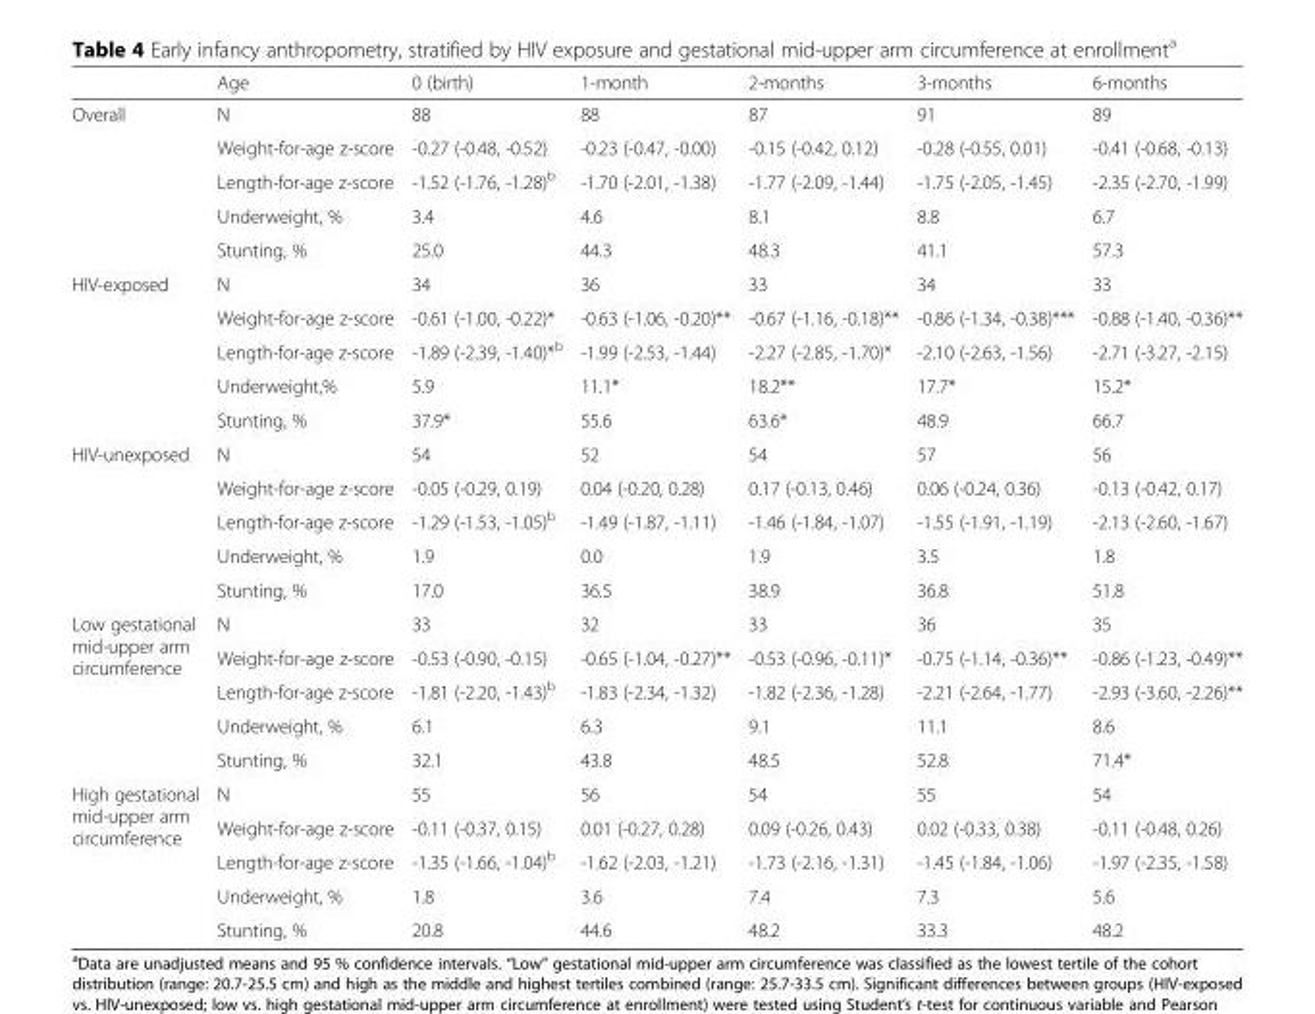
<table><thead><tr><td></td><td>Age</td><td>0 (birth)</td><td>1-month</td><td>2-months</td><td>3-months</td><td>6-months</td></tr></thead><tbody><tr><td rowspan="5">Overall</td><td>N</td><td>88</td><td>88</td><td>87</td><td>91</td><td>89</td></tr><tr><td>Weight-for-age z-score</td><td>-0.27 (-0.48, -0.52)</td><td>-0.23 (-0.47, -0.00)</td><td>-0.15 (-0.42, 0.12)</td><td>-0.28 (-0.55, 0.01)</td><td>-0.41 (-0.68, -0.13)</td></tr><tr><td>Length-for-age z-score</td><td>-1.52 (-1.76, -1.28)<sup>b</sup></td><td>-1.70 (-2.01, -1.38)</td><td>-1.77 (-2.09, -1.44)</td><td>-1.75 (-2.05, -1.45)</td><td>-2.35 (-2.70, -1.99)</td></tr><tr><td>Underweight, %</td><td>3.4</td><td>4.6</td><td>8.1</td><td>8.8</td><td>6.7</td></tr><tr><td>Stunting, %</td><td>25.0</td><td>44.3</td><td>48.3</td><td>41.1</td><td>57.3</td></tr><tr><td rowspan="5">HIV-exposed</td><td>N</td><td>34</td><td>36</td><td>33</td><td>34</td><td>33</td></tr><tr><td>Weight-for-age z-score</td><td>-0.61 (-1.00, -0.22)*</td><td>-0.63 (-1.06, -0.20)**</td><td>-0.67 (-1.16, -0.18)**</td><td>-0.86 (-1.34, -0.38)***</td><td>-0.88 (-1.40, -0.36)**</td></tr><tr><td>Length-for-age z-score</td><td>-1.89 (-2.39, -1.40)*<sup>b</sup></td><td>-1.99 (-2.53, -1.44)</td><td>-2.27 (-2.85, -1.70)*</td><td>-2.10 (-2.63, -1.56)</td><td>-2.71 (-3.27, -2.15)</td></tr><tr><td>Underweight,%</td><td>5.9</td><td>11.1*</td><td>18.2**</td><td>17.7*</td><td>15.2*</td></tr><tr><td>Stunting, %</td><td>37.9*</td><td>55.6</td><td>63.6*</td><td>48.9</td><td>66.7</td></tr><tr><td rowspan="5">HIV-unexposed</td><td>N</td><td>54</td><td>52</td><td>54</td><td>57</td><td>56</td></tr><tr><td>Weight-for-age z-score</td><td>-0.05 (-0.29, 0.19)</td><td>0.04 (-0.20, 0.28)</td><td>0.17 (-0.13, 0.46)</td><td>0.06 (-0.24, 0.36)</td><td>-0.13 (-0.42, 0.17)</td></tr><tr><td>Length-for-age z-score</td><td>-1.29 (-1.53, -1.05)<sup>b</sup></td><td>-1.49 (-1.87, -1.11)</td><td>-1.46 (-1.84, -1.07)</td><td>-1.55 (-1.91, -1.19)</td><td>-2.13 (-2.60, -1.67)</td></tr><tr><td>Underweight, %</td><td>1.9</td><td>0.0</td><td>1.9</td><td>3.5</td><td>1.8</td></tr><tr><td>Stunting, %</td><td>17.0</td><td>36.5</td><td>38.9</td><td>36.8</td><td>51.8</td></tr><tr><td rowspan="5">Low gestational mid-upper arm circumference</td><td>N</td><td>33</td><td>32</td><td>33</td><td>36</td><td>35</td></tr><tr><td>Weight-for-age z-score</td><td>-0.53 (-0.90, -0.15)</td><td>-0.65 (-1.04, -0.27)**</td><td>-0.53 (-0.96, -0.11)*</td><td>-0.75 (-1.14, -0.36)**</td><td>-0.86 (-1.23, -0.49)**</td></tr><tr><td>Length-for-age z-score</td><td>-1.81 (-2.20, -1.43)<sup>b</sup></td><td>-1.83 (-2.34, -1.32)</td><td>-1.82 (-2.36, -1.28)</td><td>-2.21 (-2.64, -1.77)</td><td>-2.93 (-3.60, -2.26)**</td></tr><tr><td>Underweight, %</td><td>6.1</td><td>6.3</td><td>9.1</td><td>11.1</td><td>8.6</td></tr><tr><td>Stunting, %</td><td>32.1</td><td>43.8</td><td>48.5</td><td>52.8</td><td>71.4*</td></tr><tr><td rowspan="5">High gestational mid-upper arm circumference</td><td>N</td><td>55</td><td>56</td><td>54</td><td>55</td><td>54</td></tr><tr><td>Weight-for-age z-score</td><td>-0.11 (-0.37, 0.15)</td><td>0.01 (-0.27, 0.28)</td><td>0.09 (-0.26, 0.43)</td><td>0.02 (-0.33, 0.38)</td><td>-0.11 (-0.48, 0.26)</td></tr><tr><td>Length-for-age z-score</td><td>-1.35 (-1.66, -1.04)<sup>b</sup></td><td>-1.62 (-2.03, -1.21)</td><td>-1.73 (-2.16, -1.31)</td><td>-1.45 (-1.84, -1.06)</td><td>-1.97 (-2.35, -1.58)</td></tr><tr><td>Underweight, %</td><td>1.8</td><td>3.6</td><td>7.4</td><td>7.3</td><td>5.6</td></tr><tr><td>Stunting, %</td><td>20.8</td><td>44.6</td><td>48.2</td><td>33.3</td><td>48.2</td></tr></tbody></table>